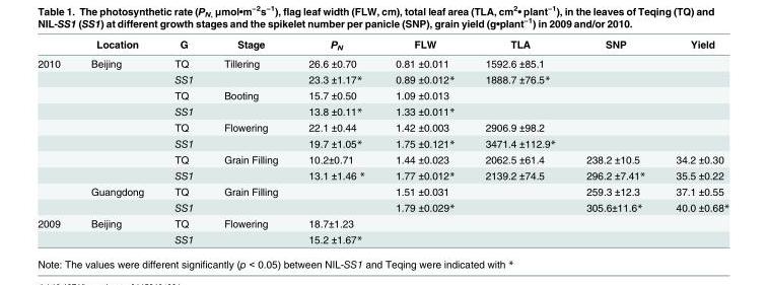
<table><thead><tr><td></td><td>Location</td><td>G</td><td>Stage</td><td>P<sub>N</sub></td><td>FLW</td><td>TLA</td><td>SNP</td><td>Yield</td></tr></thead><tbody><tr><td rowspan="10">2010</td><td>Beijing</td><td>TQ</td><td>Tillering</td><td>26.6 ±0.70</td><td>0.81 ±0.011</td><td>1592.6 ±85.1</td><td></td><td></td></tr><tr><td></td><td>SS1</td><td></td><td>23.3 ±1.17*</td><td>0.89 ±0.012*</td><td>1888.7 ±76.5*</td><td></td><td></td></tr><tr><td></td><td>TQ</td><td>Booting</td><td>15.7 ±0.50</td><td>1.09 ±0.013</td><td></td><td></td><td></td></tr><tr><td></td><td>SS1</td><td></td><td>13.8 ±0.11*</td><td>1.33 ±0.011*</td><td></td><td></td><td></td></tr><tr><td></td><td>TQ</td><td>Flowering</td><td>22.1 ±0.44</td><td>1.42 ±0.003</td><td>2906.9 ±98.2</td><td></td><td></td></tr><tr><td></td><td>SS1</td><td></td><td>19.7 ±1.05*</td><td>1.75 ±0.121*</td><td>3471.4 ±112.9*</td><td></td><td></td></tr><tr><td></td><td>TQ</td><td>Grain Filling</td><td>10.2±0.71</td><td>1.44 ±0.023</td><td>2062.5 ±61.4</td><td>238.2 ±10.5</td><td>34.2 ±0.30</td></tr><tr><td></td><td>SS1</td><td></td><td>13.1 ±1.46 *</td><td>1.77 ±0.012*</td><td>2139.2 ±74.5</td><td>296.2 ±7.41*</td><td>35.5 ±0.22</td></tr><tr><td>Guangdong</td><td>TQ</td><td>Grain Filling</td><td></td><td>1.51 ±0.031</td><td></td><td>259.3 ±12.3</td><td>37.1 ±0.55</td></tr><tr><td></td><td>SS1</td><td></td><td></td><td>1.79 ±0.029*</td><td></td><td>305.6±11.6*</td><td>40.0 ±0.68*</td></tr><tr><td rowspan="2">2009</td><td>Beijing</td><td>TQ</td><td>Flowering</td><td>18.7±1.23</td><td></td><td></td><td></td><td></td></tr><tr><td></td><td>SS1</td><td></td><td>15.2 ±1.67*</td><td></td><td></td><td></td><td></td></tr></tbody></table>